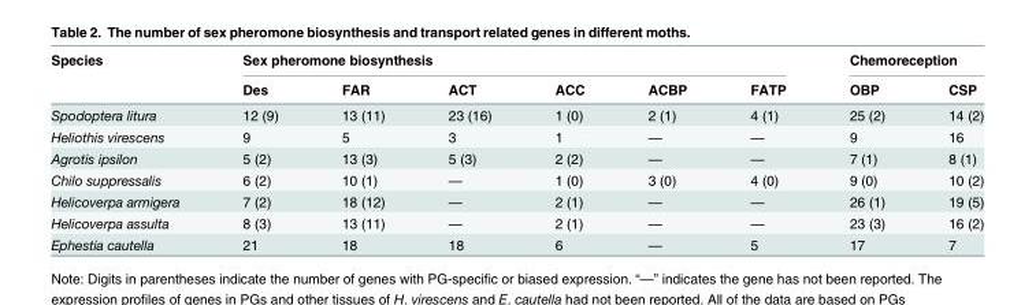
<table><thead><tr><td rowspan="2">Species</td><td colspan="6">Sex pheromone biosynthesis</td><td colspan="2">Chemoreception</td></tr><tr><td>Des</td><td>FAR</td><td>ACT</td><td>ACC</td><td>ACBP</td><td>FATP</td><td>OBP</td><td>CSP</td></tr></thead><tbody><tr><td>Spodoptera litura</td><td>12 (9)</td><td>13 (11)</td><td>23 (16)</td><td>1 (0)</td><td>2 (1)</td><td>4 (1)</td><td>25 (2)</td><td>14 (2)</td></tr><tr><td>Heliothis virescens</td><td>9</td><td>5</td><td>3</td><td>1</td><td>—</td><td>—</td><td>9</td><td>16</td></tr><tr><td>Agrotis ipsilon</td><td>5 (2)</td><td>13 (3)</td><td>5 (3)</td><td>2 (2)</td><td>—</td><td>—</td><td>7 (1)</td><td>8 (1)</td></tr><tr><td>Chilo suppressalis</td><td>6 (2)</td><td>10 (1)</td><td>—</td><td>1 (0)</td><td>3 (0)</td><td>4 (0)</td><td>9 (0)</td><td>10 (2)</td></tr><tr><td>Helicoverpa armigera</td><td>7 (2)</td><td>18 (12)</td><td>—</td><td>2 (1)</td><td>—</td><td>—</td><td>26 (1)</td><td>19 (5)</td></tr><tr><td>Helicoverpa assulta</td><td>8 (3)</td><td>13 (11)</td><td>—</td><td>2 (1)</td><td>—</td><td>—</td><td>23 (3)</td><td>16 (2)</td></tr><tr><td>Ephestia cautella</td><td>21</td><td>18</td><td>18</td><td>6</td><td>—</td><td>5</td><td>17</td><td>7</td></tr></tbody></table>